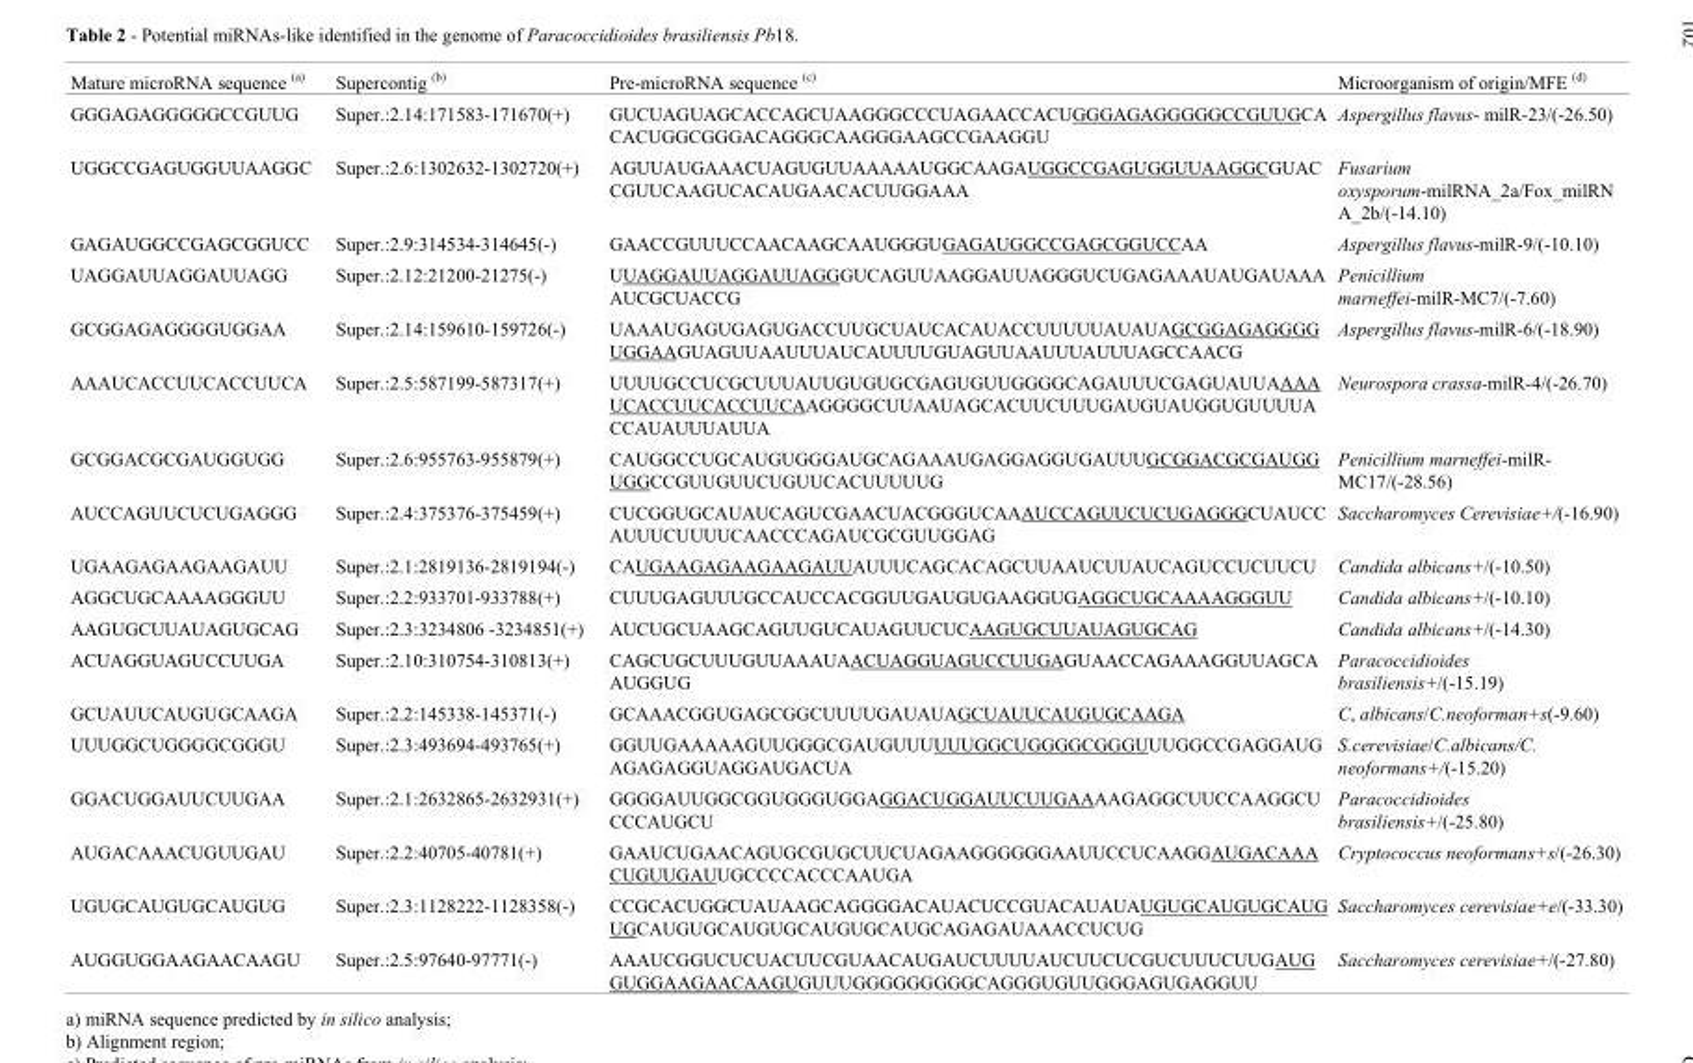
<table><thead><tr><td>Mature microRNA sequence <sup>(a)</sup></td><td>Supercontig <sup>(b)</sup></td><td>Pre-microRNA sequence <sup>(c)</sup></td><td>Microorganism of origin/MFE <sup>(d)</sup></td></tr></thead><tbody><tr><td>GGGAGAGGGGGCCGUUG</td><td>Super.:2.14:171583-171670(+)</td><td>GUCUAGUAGCACCAGCUAAGGGCCCUAGAACCACUGGGAGAGGGGGCCGUUGCA CACUGGCGGGACAGGGCAAGGGAAGCCGAAGGU</td><td>Aspergillus flavus- milR-23/(-26.50)</td></tr><tr><td>UGGCCGAGUGGUUAAGGC</td><td>Super.:2.6:1302632-1302720(+)</td><td>AGUUAUGAAACUAGUGUUAAAAAUGGCAAGAUGGCCGAGUGGUUAAGGCGUAC CGUUCAAGUCACAUGAACACUUGGAAA</td><td>Fusarium oxysporum-milRNA_2a/Fox_milRN A_2b/(-14.10)</td></tr><tr><td>GAGAUGGCCGAGCGGUCC</td><td>Super.:2.9:314534-314645(-)</td><td>GAACCGUUUCCAACAAGCAAUGGGUGAGAUGGCCGAGCGGUCCAA</td><td>Aspergillus flavus-milR-9/(-10.10)</td></tr><tr><td>UAGGAUUAGGAUUAGG</td><td>Super.:2.12:21200-21275(-)</td><td>UUAGGAUUAGGAUUAGGGUCAGUUAAGGAUUAGGGUCUGAGAAAUAUGAUAAA AUCGCUACCG</td><td>Penicillium marneffei-milR-MC7/(-7.60)</td></tr><tr><td>GCGGAGAGGGGUGGAA</td><td>Super.:2.14:159610-159726(-)</td><td>UAAAUGAGUGAGUGACCUUGCUAUCACAUACCUUUUUAUAUAGCGGAGAGGGG UGGAAGUAGUUAAUUUAUCAUUUUGUAGUUAAUUUAUUUAGCCAACG</td><td>Aspergillus flavus-milR-6/(-18.90)</td></tr><tr><td>AAAUCACCUUCACCUUCA</td><td>Super.:2.5:587199-587317(+)</td><td>UUUUGCCUCGCUUUAUUGUGUGCGAGUGUUGGGGCAGAUUUCGAGUAUUAAAA UCACCUUCACCUUCAAGGGGCUUAAUAGCACUUCUUUGAUGUAUGGUGUUUUA CCAUAUUUAUUA</td><td>Neurospora crassa-milR-4/(-26.70)</td></tr><tr><td>GCGGACGCGAUGGUGG</td><td>Super.:2.6:955763-955879(+)</td><td>CAUGGCCUGCAUGUGGGAUGCAGAAAUGAGGAGGUGAUUUGCGGACGCGAUGG UGGCCGUUGUUCUGUUCACUUUUUG</td><td>Penicillium marneffei-milR- MC17/(-28.56)</td></tr><tr><td>AUCCAGUUCUCUGAGGG</td><td>Super.:2.4:375376-375459(+)</td><td>CUCGGUGCAUAUCAGUCGAACUACGGGUCAAAUCCAGUUCUCUGAGGGCUAUCC AUUUCUUUUCAACCCAGAUCGCGUUGGAG</td><td>Saccharomyces Cerevisiae+/(-16.90)</td></tr><tr><td>UGAAGAGAAGAAGAUU</td><td>Super.:2.1:2819136-2819194(-)</td><td>CAUGAAGAGAAGAAGAUUAUUUCAGCACAGCUUAAUCUUAUCAGUCCUCUUCU</td><td>Candida albicans+/(-10.50)</td></tr><tr><td>AGGCUGCAAAAGGGUU</td><td>Super.:2.2:933701-933788(+)</td><td>CUUUGAGUUUGCCAUCCACGGUUGAUGUGAAGGUGAGGCUGCAAAAGGGUU</td><td>Candida albicans+/(-10.10)</td></tr><tr><td>AAGUGCUUAUAGUGCAG</td><td>Super.:2.3:3234806 -3234851(+)</td><td>AUCUGCUAAGCAGUUGUCAUAGUUCUCAAGUGCUUAUAGUGCAG</td><td>Candida albicans+/(-14.30)</td></tr><tr><td>ACUAGGUAGUCCUUGA</td><td>Super.:2.10:310754-310813(+)</td><td>CAGCUGCUUUGUUAAAUAACUAGGUAGUCCUUGAGUAACCAGAAAGGUUAGCA AUGGUG</td><td>Paracoccidioides brasiliensis+/(-15.19)</td></tr><tr><td>GCUAUUCAUGUGCAAGA</td><td>Super.:2.2:145338-145371(-)</td><td>GCAAACGGUGAGCGGCUUUUGAUAUAGCUAUUCAUGUGCAAGA</td><td>C, albicans/C.neoforman+s(-9.60)</td></tr><tr><td>UUUGGCUGGGGCGGGU</td><td>Super.:2.3:493694-493765(+)</td><td>GGUUGAAAAAGUUGGGCGAUGUUUUUUGGCUGGGGCGGGUUUGGCCGAGGAUG AGAGAGGUAGGAUGACUA</td><td>S.cerevisiae/C.albicans/C. neoformans+/(-15.20)</td></tr><tr><td>GGACUGGAUUCUUGAA</td><td>Super.:2.1:2632865-2632931(+)</td><td>GGGGAUUGGCGGUGGGUGGAGGACUGGAUUCUUGAAAAGAGGCUUCCAAGGCU CCCAUGCU</td><td>Paracoccidioides brasiliensis+/(-25.80)</td></tr><tr><td>AUGACAAACUGUUGAU</td><td>Super.:2.2:40705-40781(+)</td><td>GAAUCUGAACAGUGCGUGCUUCUAGAAGGGGGGAAUUCCUCAAGGAUGACAAA CUGUUGAUUGCCCCACCCAAUGA</td><td>Cryptococcus neoformans+s/(-26.30)</td></tr><tr><td>UGUGCAUGUGCAUGUG</td><td>Super.:2.3:1128222-1128358(-)</td><td>CCGCACUGGCUAUAAGCAGGGGACAUACUCCGUACAUAUAUGUGCAUGUGCAUG UGCAUGUGCAUGUGCAUGUGCAUGCAGAGAUAAACCUCUG</td><td>Saccharomyces cerevisiae+e/(-33.30)</td></tr><tr><td>AUGGUGGAAGAACAAGU</td><td>Super.:2.5:97640-97771(-)</td><td>AAAUCGGUCUCUACUUCGUAACAUGAUCUUUUAUCUUCUCGUCUUUCUUGAUG GUGGAAGAACAAGUGUUUGGGGGGGGGCAGGGUGUUGGGAGUGAGGUU</td><td>Saccharomyces cerevisiae+/(-27.80)</td></tr></tbody></table>